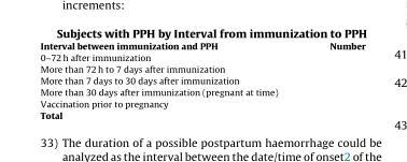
<table><tbody><tr><td>Interval between immunization and PPH</td><td>Number</td></tr><tr><td colspan="2">0–72 h after immunization</td></tr><tr><td colspan="2">More than 72 h to 7 days after immunization</td></tr><tr><td colspan="2">More than 7 days to 30 days after immunization</td></tr><tr><td colspan="2">More than 30 days after immunization (pregnant at time)</td></tr><tr><td colspan="2">Vaccination prior to pregnancy</td></tr><tr><td>Total</td><td></td></tr></tbody></table>